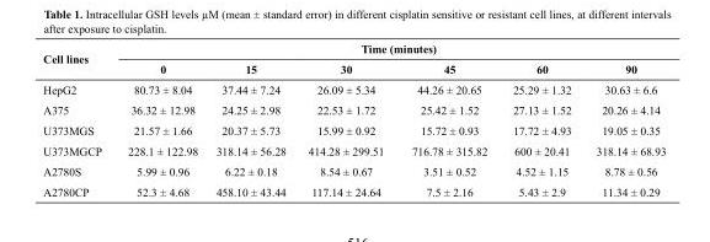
<table><thead><tr><td rowspan="2">Cell lines</td><td colspan="6">Time (minutes)</td></tr><tr><td>0</td><td>15</td><td>30</td><td>45</td><td>60</td><td>90</td></tr></thead><tbody><tr><td>HepG2</td><td>80.73 ± 8.04</td><td>37.44 ± 7.24</td><td>26.09 ± 5.34</td><td>44.26 ± 20.65</td><td>25.29 ± 1.32</td><td>30.63 ± 6.6</td></tr><tr><td>A375</td><td>36.32 ± 12.98</td><td>24.25 ± 2.98</td><td>22.53 ± 1.72</td><td>25.42 ± 1.52</td><td>27.13 ± 1.52</td><td>20.26 ± 4.14</td></tr><tr><td>U373MGS</td><td>21.57 ± 1.66</td><td>20.37 ± 5.73</td><td>15.99 ± 0.92</td><td>15.72 ± 0.93</td><td>17.72 ± 4.93</td><td>19.05 ± 0.35</td></tr><tr><td>U373MGCP</td><td>228.1 ± 122.98</td><td>318.14 ± 56.28</td><td>414.28 ± 299.51</td><td>716.78 ± 315.82</td><td>600 ± 20.41</td><td>318.14 ± 68.93</td></tr><tr><td>A2780S</td><td>5.99 ± 0.96</td><td>6.22 ± 0.18</td><td>8.54 ± 0.67</td><td>3.51 ± 0.52</td><td>4.52 ± 1.15</td><td>8.78 ± 0.56</td></tr><tr><td>A2780CP</td><td>52.3 ± 4.68</td><td>458.10 ± 43.44</td><td>117.14 ± 24.64</td><td>7.5 ± 2.16</td><td>5.43 ± 2.9</td><td>11.34 ± 0.29</td></tr></tbody></table>